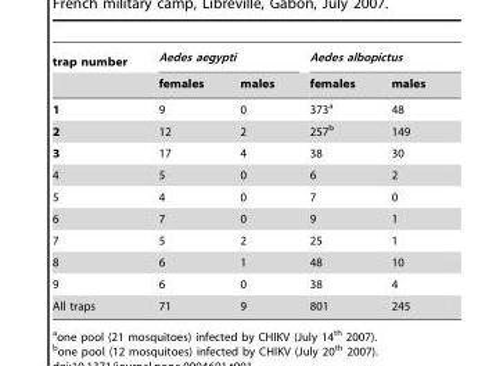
<table><thead><tr><td rowspan="2">trap number</td><td colspan="2">Aedes aegypti</td><td colspan="2">Aedes albopictus</td></tr><tr><td>females</td><td>males</td><td>females</td><td>males</td></tr></thead><tbody><tr><td>1</td><td>9</td><td>0</td><td>373<sup>a</sup></td><td>48</td></tr><tr><td>2</td><td>12</td><td>2</td><td>257<sup>b</sup></td><td>149</td></tr><tr><td>3</td><td>17</td><td>4</td><td>38</td><td>30</td></tr><tr><td>4</td><td>5</td><td>0</td><td>6</td><td>2</td></tr><tr><td>5</td><td>4</td><td>0</td><td>7</td><td>0</td></tr><tr><td>6</td><td>7</td><td>0</td><td>9</td><td>1</td></tr><tr><td>7</td><td>5</td><td>2</td><td>25</td><td>1</td></tr><tr><td>8</td><td>6</td><td>1</td><td>48</td><td>10</td></tr><tr><td>9</td><td>6</td><td>0</td><td>38</td><td>4</td></tr><tr><td>All traps</td><td>71</td><td>9</td><td>801</td><td>245</td></tr></tbody></table>